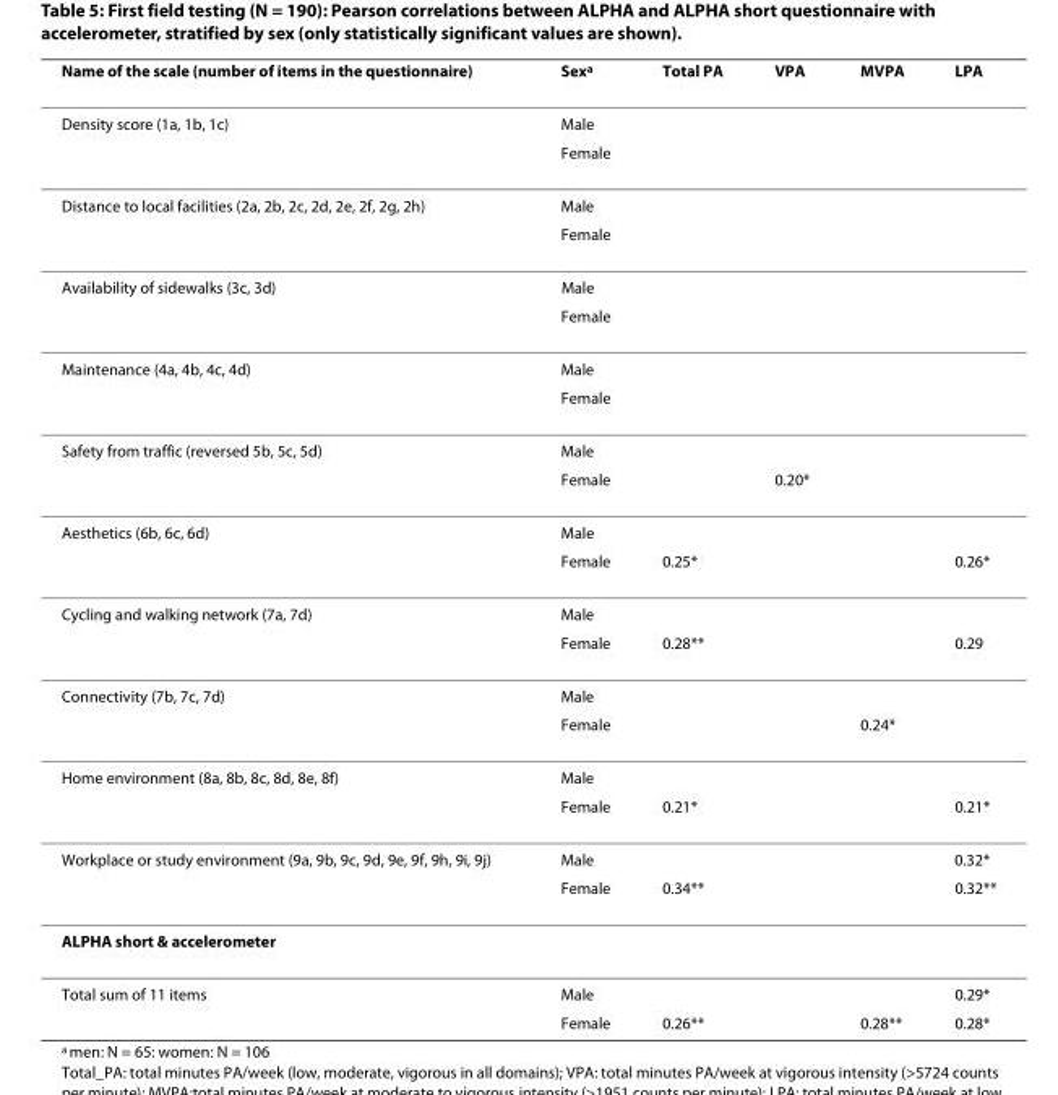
<table><thead><tr><td>Name of the scale (number of items in the questionnaire)</td><td>Sex<sup>a</sup></td><td>Total PA</td><td>VPA</td><td>MVPA</td><td>LPA</td></tr></thead><tbody><tr><td rowspan="2">Density score (1a, 1b, 1c)</td><td>Male</td><td></td><td></td><td></td><td></td></tr><tr><td>Female</td><td></td><td></td><td></td><td></td></tr><tr><td rowspan="2">Distance to local facilities (2a, 2b, 2c, 2d, 2e, 2f, 2g, 2h)</td><td>Male</td><td></td><td></td><td></td><td></td></tr><tr><td>Female</td><td></td><td></td><td></td><td></td></tr><tr><td rowspan="2">Availability of sidewalks (3c, 3d)</td><td>Male</td><td></td><td></td><td></td><td></td></tr><tr><td>Female</td><td></td><td></td><td></td><td></td></tr><tr><td rowspan="2">Maintenance (4a, 4b, 4c, 4d)</td><td>Male</td><td></td><td></td><td></td><td></td></tr><tr><td>Female</td><td></td><td></td><td></td><td></td></tr><tr><td rowspan="2">Safety from traffic (reversed 5b, 5c, 5d)</td><td>Male</td><td></td><td></td><td></td><td></td></tr><tr><td>Female</td><td></td><td>0.20*</td><td></td><td></td></tr><tr><td rowspan="2">Aesthetics (6b, 6c, 6d)</td><td>Male</td><td></td><td></td><td></td><td></td></tr><tr><td>Female</td><td>0.25*</td><td></td><td></td><td>0.26*</td></tr><tr><td rowspan="2">Cycling and walking network (7a, 7d)</td><td>Male</td><td></td><td></td><td></td><td></td></tr><tr><td>Female</td><td>0.28**</td><td></td><td></td><td>0.29</td></tr><tr><td rowspan="2">Connectivity (7b, 7c, 7d)</td><td>Male</td><td></td><td></td><td></td><td></td></tr><tr><td>Female</td><td></td><td></td><td>0.24*</td><td></td></tr><tr><td rowspan="2">Home environment (8a, 8b, 8c, 8d, 8e, 8f)</td><td>Male</td><td></td><td></td><td></td><td></td></tr><tr><td>Female</td><td>0.21*</td><td></td><td></td><td>0.21*</td></tr><tr><td rowspan="2">Workplace or study environment (9a, 9b, 9c, 9d, 9e, 9f, 9h, 9i, 9j)</td><td>Male</td><td></td><td></td><td></td><td>0.32*</td></tr><tr><td>Female</td><td>0.34**</td><td></td><td></td><td>0.32**</td></tr><tr><td colspan="6">ALPHA short &amp; accelerometer</td></tr><tr><td rowspan="2">Total sum of 11 items</td><td>Male</td><td></td><td></td><td></td><td>0.29*</td></tr><tr><td>Female</td><td>0.26**</td><td></td><td>0.28**</td><td>0.28*</td></tr></tbody></table>